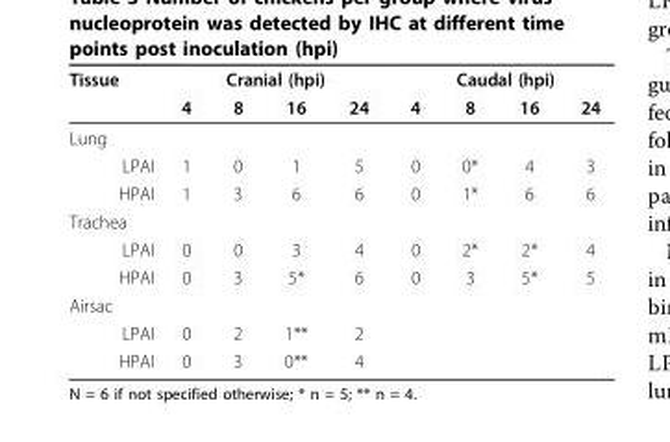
<table><thead><tr><td rowspan="2">Tissue</td><td colspan="4">Cranial (hpi)</td><td colspan="4">Caudal (hpi)</td></tr><tr><td>4</td><td>8</td><td>16</td><td>24</td><td>4</td><td>8</td><td>16</td><td>24</td></tr></thead><tbody><tr><td colspan="9">Lung</td></tr><tr><td>LPAI</td><td>1</td><td>0</td><td>1</td><td>5</td><td>0</td><td>0*</td><td>4</td><td>3</td></tr><tr><td>HPAI</td><td>1</td><td>3</td><td>6</td><td>6</td><td>0</td><td>1*</td><td>6</td><td>6</td></tr><tr><td colspan="9">Trachea</td></tr><tr><td>LPAI</td><td>0</td><td>0</td><td>3</td><td>4</td><td>0</td><td>2*</td><td>2*</td><td>4</td></tr><tr><td>HPAI</td><td>0</td><td>3</td><td>5*</td><td>6</td><td>0</td><td>3</td><td>5*</td><td>5</td></tr><tr><td colspan="9">Airsac</td></tr><tr><td>LPAI</td><td>0</td><td>2</td><td>1**</td><td>2</td><td></td><td></td><td></td><td></td></tr><tr><td>HPAI</td><td>0</td><td>3</td><td>0**</td><td>4</td><td></td><td></td><td></td><td></td></tr></tbody></table>